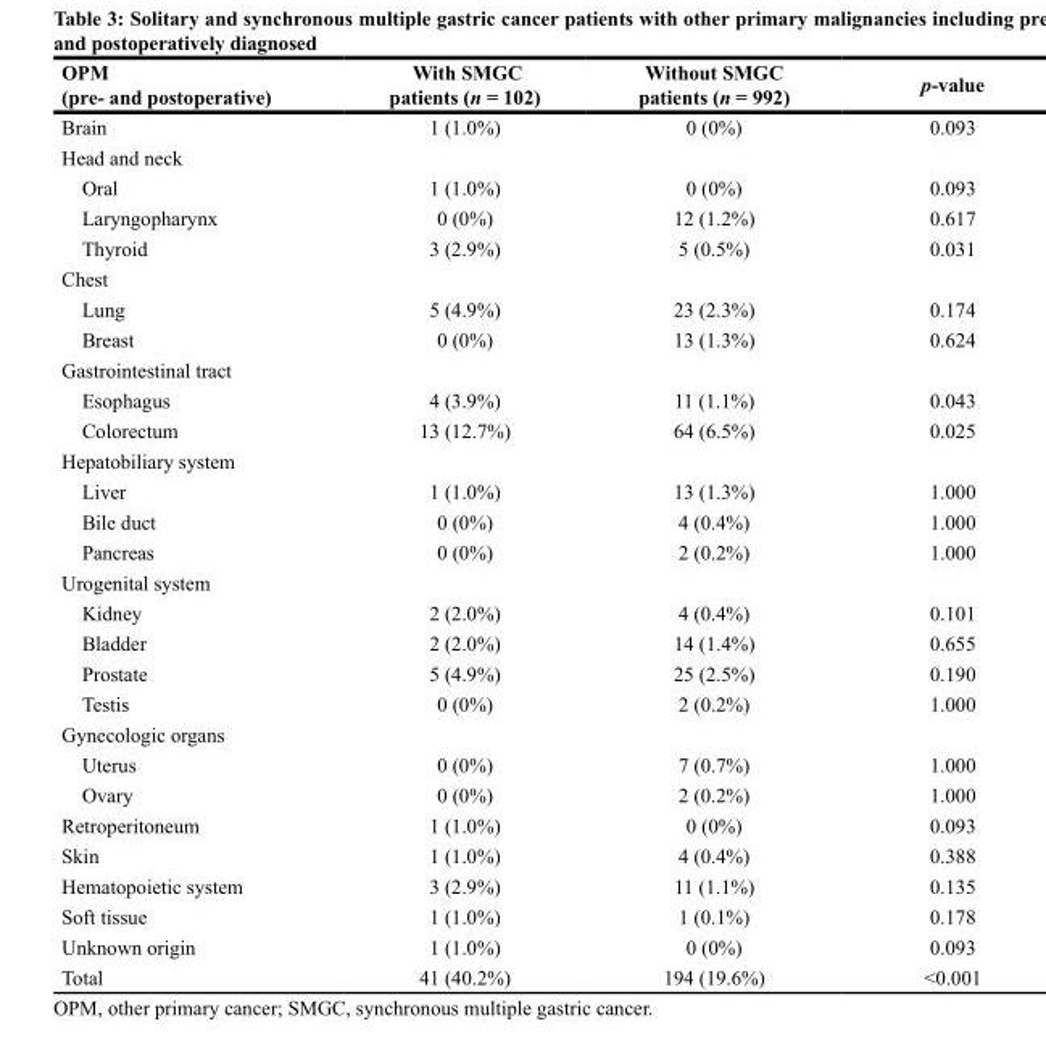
<table><thead><tr><td>OPM (pre- and postoperative)</td><td>With SMGC patients (n = 102)</td><td>Without SMGC patients (n = 992)</td><td>p-value</td></tr></thead><tbody><tr><td>Brain</td><td>1 (1.0%)</td><td>0 (0%)</td><td>0.093</td></tr><tr><td colspan="4">Head and neck</td></tr><tr><td>Oral</td><td>1 (1.0%)</td><td>0 (0%)</td><td>0.093</td></tr><tr><td>Laryngopharynx</td><td>0 (0%)</td><td>12 (1.2%)</td><td>0.617</td></tr><tr><td>Thyroid</td><td>3 (2.9%)</td><td>5 (0.5%)</td><td>0.031</td></tr><tr><td colspan="4">Chest</td></tr><tr><td>Lung</td><td>5 (4.9%)</td><td>23 (2.3%)</td><td>0.174</td></tr><tr><td>Breast</td><td>0 (0%)</td><td>13 (1.3%)</td><td>0.624</td></tr><tr><td colspan="4">Gastrointestinal tract</td></tr><tr><td>Esophagus</td><td>4 (3.9%)</td><td>11 (1.1%)</td><td>0.043</td></tr><tr><td>Colorectum</td><td>13 (12.7%)</td><td>64 (6.5%)</td><td>0.025</td></tr><tr><td colspan="4">Hepatobiliary system</td></tr><tr><td>Liver</td><td>1 (1.0%)</td><td>13 (1.3%)</td><td>1.000</td></tr><tr><td>Bile duct</td><td>0 (0%)</td><td>4 (0.4%)</td><td>1.000</td></tr><tr><td>Pancreas</td><td>0 (0%)</td><td>2 (0.2%)</td><td>1.000</td></tr><tr><td colspan="4">Urogenital system</td></tr><tr><td>Kidney</td><td>2 (2.0%)</td><td>4 (0.4%)</td><td>0.101</td></tr><tr><td>Bladder</td><td>2 (2.0%)</td><td>14 (1.4%)</td><td>0.655</td></tr><tr><td>Prostate</td><td>5 (4.9%)</td><td>25 (2.5%)</td><td>0.190</td></tr><tr><td>Testis</td><td>0 (0%)</td><td>2 (0.2%)</td><td>1.000</td></tr><tr><td colspan="4">Gynecologic organs</td></tr><tr><td>Uterus</td><td>0 (0%)</td><td>7 (0.7%)</td><td>1.000</td></tr><tr><td>Ovary</td><td>0 (0%)</td><td>2 (0.2%)</td><td>1.000</td></tr><tr><td>Retroperitoneum</td><td>1 (1.0%)</td><td>0 (0%)</td><td>0.093</td></tr><tr><td>Skin</td><td>1 (1.0%)</td><td>4 (0.4%)</td><td>0.388</td></tr><tr><td>Hematopoietic system</td><td>3 (2.9%)</td><td>11 (1.1%)</td><td>0.135</td></tr><tr><td>Soft tissue</td><td>1 (1.0%)</td><td>1 (0.1%)</td><td>0.178</td></tr><tr><td>Unknown origin</td><td>1 (1.0%)</td><td>0 (0%)</td><td>0.093</td></tr><tr><td>Total</td><td>41 (40.2%)</td><td>194 (19.6%)</td><td>&lt;0.001</td></tr></tbody></table>